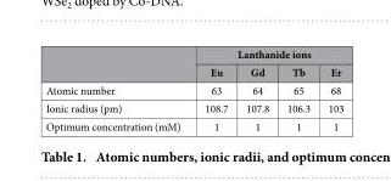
<table><thead><tr><td rowspan="2"></td><td colspan="4">Lanthanide ions</td></tr><tr><td>Eu</td><td>Gd</td><td>Tb</td><td>Er</td></tr></thead><tbody><tr><td>Atomic number</td><td>63</td><td>64</td><td>65</td><td>68</td></tr><tr><td>Ionic radius (pm)</td><td>108.7</td><td>107.8</td><td>106.3</td><td>103</td></tr><tr><td>Optimum concentration (mM)</td><td>1</td><td>1</td><td>1</td><td>1</td></tr></tbody></table>